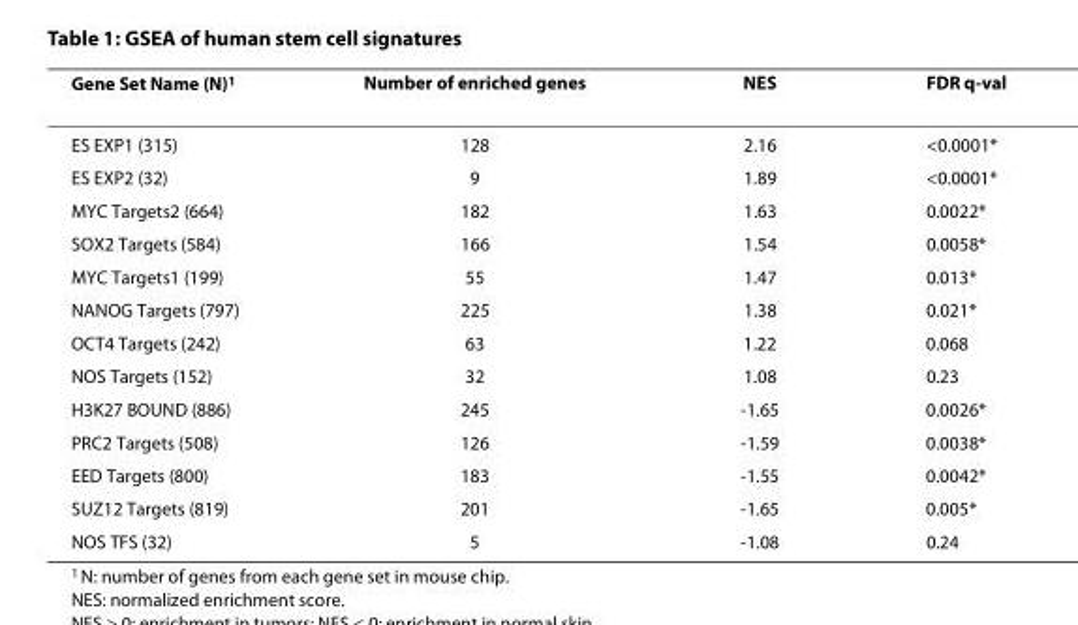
<table><thead><tr><td>Gene Set Name (N)<sup>1</sup></td><td>Number of enriched genes</td><td>NES</td><td>FDR q-val</td></tr></thead><tbody><tr><td>ES EXP1 (315)</td><td>128</td><td>2.16</td><td>&lt;0.0001*</td></tr><tr><td>ES EXP2 (32)</td><td>9</td><td>1.89</td><td>&lt;0.0001*</td></tr><tr><td>MYC Targets2 (664)</td><td>182</td><td>1.63</td><td>0.0022*</td></tr><tr><td>SOX2 Targets (584)</td><td>166</td><td>1.54</td><td>0.0058*</td></tr><tr><td>MYC Targets1 (199)</td><td>55</td><td>1.47</td><td>0.013*</td></tr><tr><td>NANOG Targets (797)</td><td>225</td><td>1.38</td><td>0.021*</td></tr><tr><td>OCT4 Targets (242)</td><td>63</td><td>1.22</td><td>0.068</td></tr><tr><td>NOS Targets (152)</td><td>32</td><td>1.08</td><td>0.23</td></tr><tr><td>H3K27 BOUND (886)</td><td>245</td><td>-1.65</td><td>0.0026*</td></tr><tr><td>PRC2 Targets (508)</td><td>126</td><td>-1.59</td><td>0.0038*</td></tr><tr><td>EED Targets (800)</td><td>183</td><td>-1.55</td><td>0.0042*</td></tr><tr><td>SUZ12 Targets (819)</td><td>201</td><td>-1.65</td><td>0.005*</td></tr><tr><td>NOS TFS (32)</td><td>5</td><td>-1.08</td><td>0.24</td></tr></tbody></table>